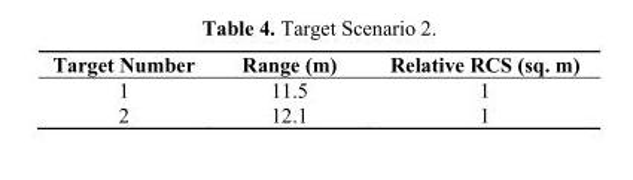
<table><thead><tr><td>Target Number</td><td>Range (m)</td><td>Relative RCS (sq. m)</td></tr></thead><tbody><tr><td>1</td><td>11.5</td><td>1</td></tr><tr><td>2</td><td>12.1</td><td>1</td></tr></tbody></table>